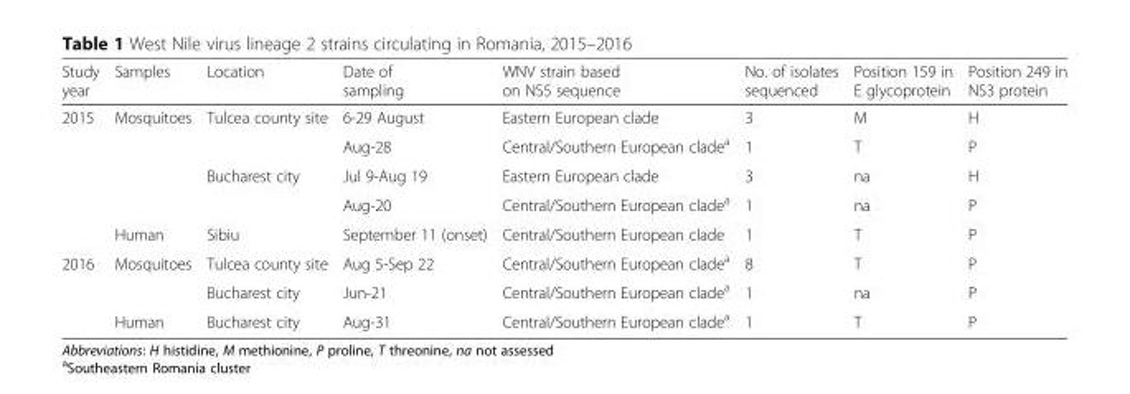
<table><thead><tr><td>Study year</td><td>Samples</td><td>Location</td><td>Date of sampling</td><td>WNV strain based on NS5 sequence</td><td>No. of isolates sequenced</td><td>Position 159 in E glycoprotein</td><td>Position 249 in NS3 protein</td></tr></thead><tbody><tr><td rowspan="5">2015</td><td rowspan="4">Mosquitoes</td><td rowspan="2">Tulcea county site</td><td>6-29 August</td><td>Eastern European clade</td><td>3</td><td>M</td><td>H</td></tr><tr><td>Aug-28</td><td>Central/Southern European clade<sup>a</sup></td><td>1</td><td>T</td><td>P</td></tr><tr><td rowspan="2">Bucharest city</td><td>Jul 9-Aug 19</td><td>Eastern European clade</td><td>3</td><td>na</td><td>H</td></tr><tr><td>Aug-20</td><td>Central/Southern European clade<sup>a</sup></td><td>1</td><td>na</td><td>P</td></tr><tr><td>Human</td><td>Sibiu</td><td>September 11 (onset)</td><td>Central/Southern European clade</td><td>1</td><td>T</td><td>P</td></tr><tr><td rowspan="3">2016</td><td rowspan="2">Mosquitoes</td><td>Tulcea county site</td><td>Aug 5-Sep 22</td><td>Central/Southern European clade<sup>a</sup></td><td>8</td><td>T</td><td>P</td></tr><tr><td>Bucharest city</td><td>Jun-21</td><td>Central/Southern European clade<sup>a</sup></td><td>1</td><td>na</td><td>P</td></tr><tr><td>Human</td><td>Bucharest city</td><td>Aug-31</td><td>Central/Southern European clade<sup>a</sup></td><td>1</td><td>T</td><td>P</td></tr></tbody></table>